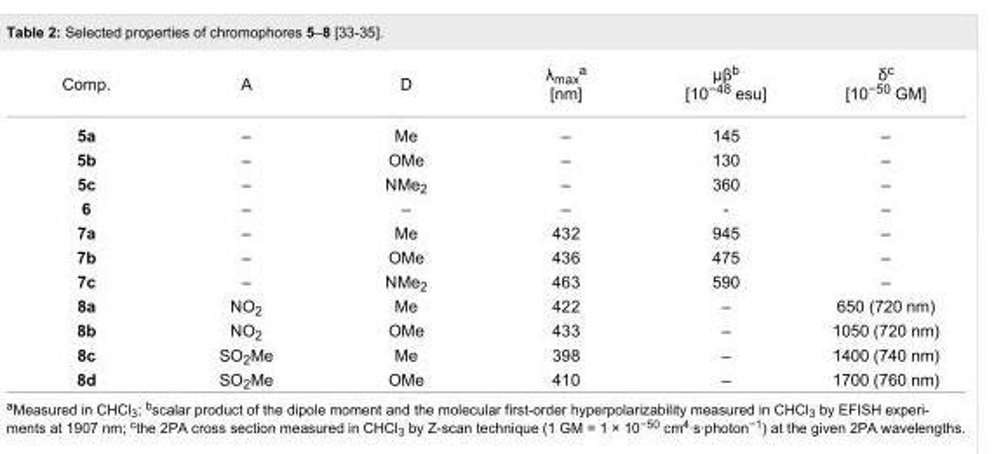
<table><tbody><tr><td>Comp.</td><td>A</td><td>D</td><td>λ<sub>max</sub><sup>a</sup> [nm]</td><td>μβ<sup>b</sup> [10<sup>−48</sup> esu]</td><td>δ<sup>c</sup> [10<sup>−50</sup> GM]</td></tr><tr><td>5a</td><td>–</td><td>Me</td><td>–</td><td>145</td><td>–</td></tr><tr><td>5b</td><td>–</td><td>OMe</td><td>–</td><td>130</td><td>–</td></tr><tr><td>5c</td><td>–</td><td>NMe<sub>2</sub></td><td>–</td><td>360</td><td>–</td></tr><tr><td>6</td><td>–</td><td>–</td><td>–</td><td>-</td><td>–</td></tr><tr><td>7a</td><td>–</td><td>Me</td><td>432</td><td>945</td><td>–</td></tr><tr><td>7b</td><td>–</td><td>OMe</td><td>436</td><td>475</td><td>–</td></tr><tr><td>7c</td><td>–</td><td>NMe<sub>2</sub></td><td>463</td><td>590</td><td>–</td></tr><tr><td>8a</td><td>NO<sub>2</sub></td><td>Me</td><td>422</td><td>–</td><td>650 (720 nm)</td></tr><tr><td>8b</td><td>NO<sub>2</sub></td><td>OMe</td><td>433</td><td>–</td><td>1050 (720 nm)</td></tr><tr><td>8c</td><td>SO<sub>2</sub>Me</td><td>Me</td><td>398</td><td>–</td><td>1400 (740 nm)</td></tr><tr><td>8d</td><td>SO<sub>2</sub>Me</td><td>OMe</td><td>410</td><td>–</td><td>1700 (760 nm)</td></tr></tbody></table>